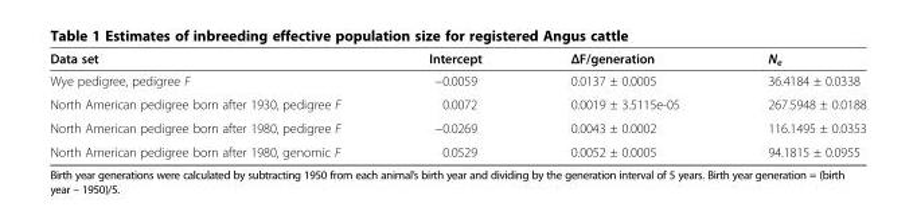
<table><thead><tr><td>Data set</td><td>Intercept</td><td>ΔF/generation</td><td>N<sub>e</sub></td></tr></thead><tbody><tr><td>Wye pedigree, pedigree F</td><td>−0.0059</td><td>0.0137 ± 0.0005</td><td>36.4184 ± 0.0338</td></tr><tr><td>North American pedigree born after 1930, pedigree F</td><td>0.0072</td><td>0.0019 ± 3.5115e-05</td><td>267.5948 ± 0.0188</td></tr><tr><td>North American pedigree born after 1980, pedigree F</td><td>−0.0269</td><td>0.0043 ± 0.0002</td><td>116.1495 ± 0.0353</td></tr><tr><td>North American pedigree born after 1980, genomic F</td><td>0.0529</td><td>0.0052 ± 0.0005</td><td>94.1815 ± 0.0955</td></tr></tbody></table>